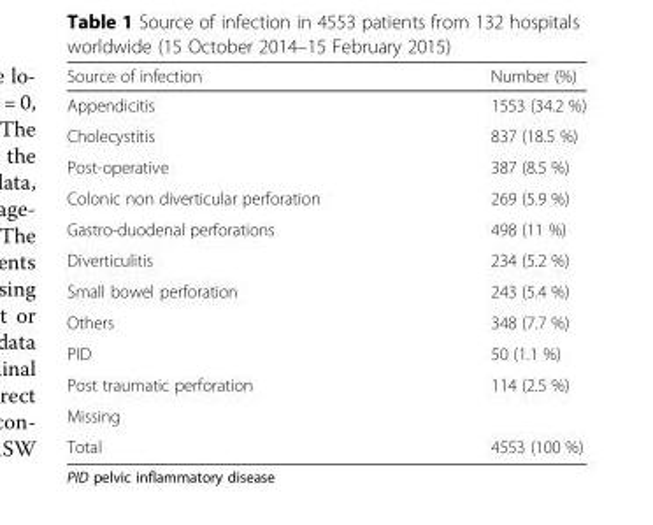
<table><thead><tr><td>Source of infection</td><td>Number (%)</td></tr></thead><tbody><tr><td>Appendicitis</td><td>1553 (34.2 %)</td></tr><tr><td>Cholecystitis</td><td>837 (18.5 %)</td></tr><tr><td>Post-operative</td><td>387 (8.5 %)</td></tr><tr><td>Colonic non diverticular perforation</td><td>269 (5.9 %)</td></tr><tr><td>Gastro-duodenal perforations</td><td>498 (11 %)</td></tr><tr><td>Diverticulitis</td><td>234 (5.2 %)</td></tr><tr><td>Small bowel perforation</td><td>243 (5.4 %)</td></tr><tr><td>Others</td><td>348 (7.7 %)</td></tr><tr><td>PID</td><td>50 (1.1 %)</td></tr><tr><td>Post traumatic perforation</td><td>114 (2.5 %)</td></tr><tr><td colspan="2">Missing</td></tr><tr><td>Total</td><td>4553 (100 %)</td></tr></tbody></table>